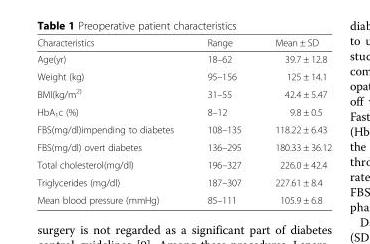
<table><thead><tr><td>Characteristics</td><td>Range</td><td>Mean ± SD</td></tr></thead><tbody><tr><td>Age(yr)</td><td>18–62</td><td>39.7 ± 12.8</td></tr><tr><td>Weight (kg)</td><td>95–156</td><td>125 ± 14.1</td></tr><tr><td>BMI(kg/m<sup>2)</sup></td><td>31–55</td><td>42.4 ± 5.47</td></tr><tr><td>HbA<sub>1</sub>c (%)</td><td>8–12</td><td>9.8 ± 0.5</td></tr><tr><td>FBS(mg/dl)impending to diabetes</td><td>108–135</td><td>118.22 ± 6.43</td></tr><tr><td>FBS(mg/dl) overt diabetes</td><td>136–295</td><td>180.33 ± 36.12</td></tr><tr><td>Total cholesterol(mg/dl)</td><td>196–327</td><td>226.0 ± 42.4</td></tr><tr><td>Triglycerides (mg/dl)</td><td>187–307</td><td>227.61 ± 8.4</td></tr><tr><td>Mean blood pressure (mmHg)</td><td>85–111</td><td>105.9 ± 6.8</td></tr></tbody></table>